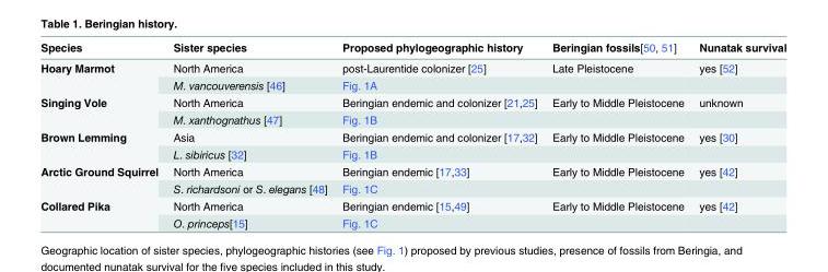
<table><thead><tr><td>Species</td><td>Sister species</td><td>Proposed phylogeographic history</td><td>Beringian fossils[50, 51]</td><td>Nunatak survival</td></tr></thead><tbody><tr><td rowspan="2">Hoary Marmot</td><td>North America</td><td>post-Laurentide colonizer [25]</td><td>Late Pleistocene</td><td>yes [52]</td></tr><tr><td>M. vancouverensis [46]</td><td>Fig. 1A</td><td></td><td></td></tr><tr><td rowspan="2">Singing Vole</td><td>North America</td><td>Beringian endemic and colonizer [21,25]</td><td>Early to Middle Pleistocene</td><td>unknown</td></tr><tr><td>M. xanthognathus [47]</td><td>Fig. 1B</td><td></td><td></td></tr><tr><td rowspan="2">Brown Lemming</td><td>Asia</td><td>Beringian endemic and colonizer [17,32]</td><td>Early to Middle Pleistocene</td><td>yes [30]</td></tr><tr><td>L. sibiricus [32]</td><td>Fig. 1B</td><td></td><td></td></tr><tr><td rowspan="2">Arctic Ground Squirrel</td><td>North America</td><td>Beringian endemic [17,33]</td><td>Early to Middle Pleistocene</td><td>yes [42]</td></tr><tr><td>S. richardsoni or S. elegans [48]</td><td>Fig. 1C</td><td></td><td></td></tr><tr><td rowspan="2">Collared Pika</td><td>North America</td><td>Beringian endemic [15,49]</td><td>Early to Middle Pleistocene</td><td>yes [42]</td></tr><tr><td>O. princeps[15]</td><td>Fig. 1C</td><td></td><td></td></tr></tbody></table>